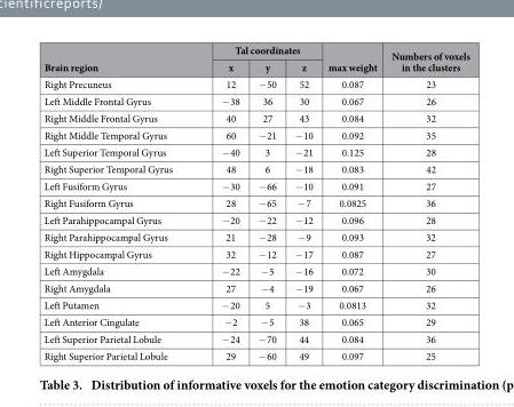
<table><thead><tr><td rowspan="2">Brain region</td><td colspan="3">Tal coordinates</td><td rowspan="2">max weight</td><td rowspan="2">Numbers of voxels in the clusters</td></tr><tr><td>x</td><td>y</td><td>z</td></tr></thead><tbody><tr><td>Right Precuneus</td><td>12</td><td>− 50</td><td>52</td><td>0.087</td><td>23</td></tr><tr><td>Left Middle Frontal Gyrus</td><td>− 38</td><td>36</td><td>30</td><td>0.067</td><td>26</td></tr><tr><td>Right Middle Frontal Gyrus</td><td>40</td><td>27</td><td>43</td><td>0.084</td><td>32</td></tr><tr><td>Right Middle Temporal Gyrus</td><td>60</td><td>− 21</td><td>− 10</td><td>0.092</td><td>35</td></tr><tr><td>Left Superior Temporal Gyrus</td><td>− 40</td><td>3</td><td>− 21</td><td>0.125</td><td>28</td></tr><tr><td>Right Superior Temporal Gyrus</td><td>48</td><td>6</td><td>− 18</td><td>0.083</td><td>42</td></tr><tr><td>Left Fusiform Gyrus</td><td>− 30</td><td>− 66</td><td>− 10</td><td>0.091</td><td>27</td></tr><tr><td>Right Fusiform Gyrus</td><td>28</td><td>− 65</td><td>− 7</td><td>0.0825</td><td>36</td></tr><tr><td>Left Parahippocampal Gyrus</td><td>− 20</td><td>− 22</td><td>− 12</td><td>0.096</td><td>28</td></tr><tr><td>Right Parahippocampal Gyrus</td><td>21</td><td>− 28</td><td>− 9</td><td>0.093</td><td>32</td></tr><tr><td>Right Hippocampal Gyrus</td><td>32</td><td>− 12</td><td>− 17</td><td>0.087</td><td>27</td></tr><tr><td>Left Amygdala</td><td>− 22</td><td>− 5</td><td>− 16</td><td>0.072</td><td>30</td></tr><tr><td>Right Amygdala</td><td>27</td><td>− 4</td><td>− 19</td><td>0.067</td><td>26</td></tr><tr><td>Left Putamen</td><td>− 20</td><td>5</td><td>− 3</td><td>0.0813</td><td>32</td></tr><tr><td>Left Anterior Cingulate</td><td>− 2</td><td>− 5</td><td>38</td><td>0.065</td><td>29</td></tr><tr><td>Left Superior Parietal Lobule</td><td>− 24</td><td>− 70</td><td>44</td><td>0.084</td><td>36</td></tr><tr><td>Right Superior Parietal Lobule</td><td>29</td><td>− 60</td><td>49</td><td>0.097</td><td>25</td></tr></tbody></table>